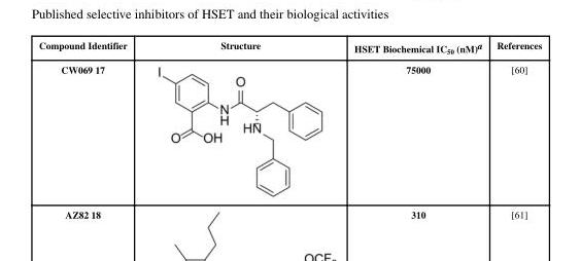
<table><thead><tr><td>Compound Identifier</td><td>Structure</td><td>HSET Biochemical IC<sub>50</sub> (nM)<sup>a</sup></td><td>References</td></tr></thead><tbody><tr><td>CW069 17</td><td></td><td>75000</td><td>[60]</td></tr><tr><td>AZ82 18</td><td></td><td>310</td><td>[61]</td></tr></tbody></table>